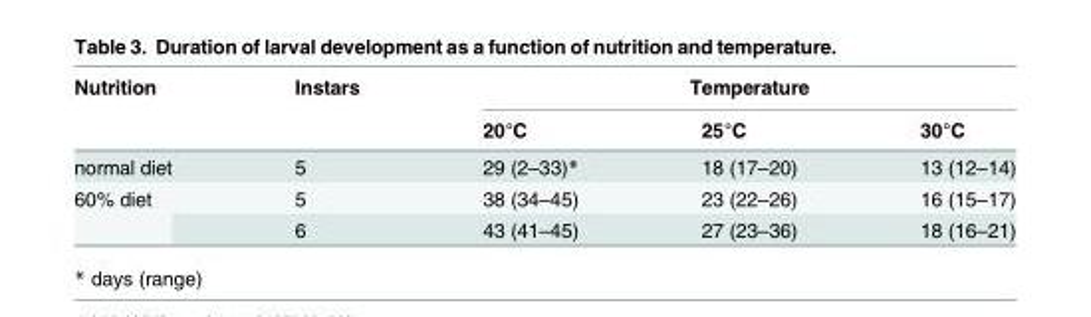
<table><thead><tr><td rowspan="2">Nutrition</td><td rowspan="2">Instars</td><td colspan="3">Temperature</td></tr><tr><td>20°C</td><td>25°C</td><td>30°C</td></tr></thead><tbody><tr><td>normal diet</td><td>5</td><td>29 (2–33)*</td><td>18 (17–20)</td><td>13 (12–14)</td></tr><tr><td rowspan="2">60% diet</td><td>5</td><td>38 (34–45)</td><td>23 (22–26)</td><td>16 (15–17)</td></tr><tr><td>6</td><td>43 (41–45)</td><td>27 (23–36)</td><td>18 (16–21)</td></tr></tbody></table>